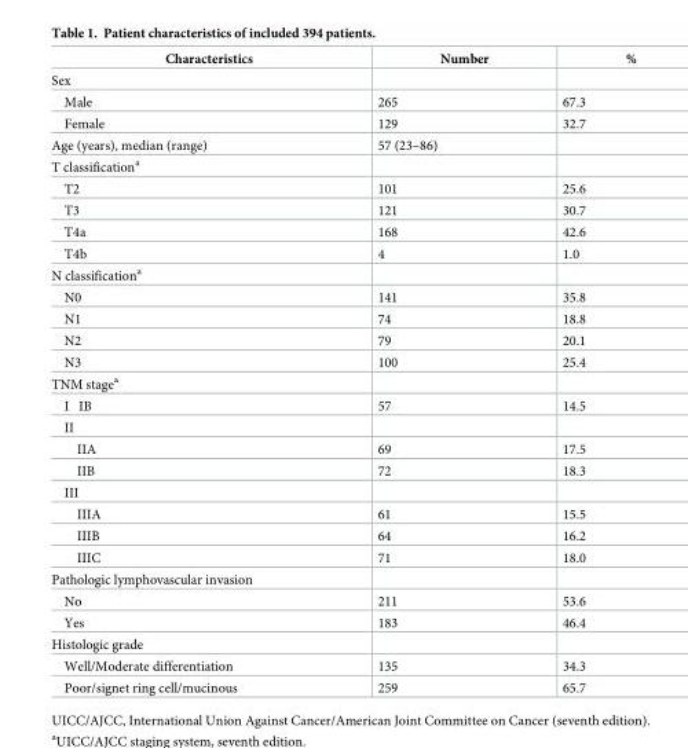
<table><thead><tr><td>Characteristics</td><td>Number</td><td>%</td></tr></thead><tbody><tr><td colspan="3">Sex</td></tr><tr><td>Male</td><td>265</td><td>67.3</td></tr><tr><td>Female</td><td>129</td><td>32.7</td></tr><tr><td>Age (years), median (range)</td><td>57 (23–86)</td><td></td></tr><tr><td colspan="3">T classification<sup>a</sup></td></tr><tr><td>T2</td><td>101</td><td>25.6</td></tr><tr><td>T3</td><td>121</td><td>30.7</td></tr><tr><td>T4a</td><td>168</td><td>42.6</td></tr><tr><td>T4b</td><td>4</td><td>1.0</td></tr><tr><td colspan="3">N classification<sup>a</sup></td></tr><tr><td>N0</td><td>141</td><td>35.8</td></tr><tr><td>N1</td><td>74</td><td>18.8</td></tr><tr><td>N2</td><td>79</td><td>20.1</td></tr><tr><td>N3</td><td>100</td><td>25.4</td></tr><tr><td colspan="3">TNM stage<sup>a</sup></td></tr><tr><td>I IB</td><td>57</td><td>14.5</td></tr><tr><td colspan="3">II</td></tr><tr><td>IIA</td><td>69</td><td>17.5</td></tr><tr><td>IIB</td><td>72</td><td>18.3</td></tr><tr><td colspan="3">III</td></tr><tr><td>IIIA</td><td>61</td><td>15.5</td></tr><tr><td>IIIB</td><td>64</td><td>16.2</td></tr><tr><td>IIIC</td><td>71</td><td>18.0</td></tr><tr><td colspan="3">Pathologic lymphovascular invasion</td></tr><tr><td>No</td><td>211</td><td>53.6</td></tr><tr><td>Yes</td><td>183</td><td>46.4</td></tr><tr><td colspan="3">Histologic grade</td></tr><tr><td>Well/Moderate differentiation</td><td>135</td><td>34.3</td></tr><tr><td>Poor/signet ring cell/mucinous</td><td>259</td><td>65.7</td></tr></tbody></table>